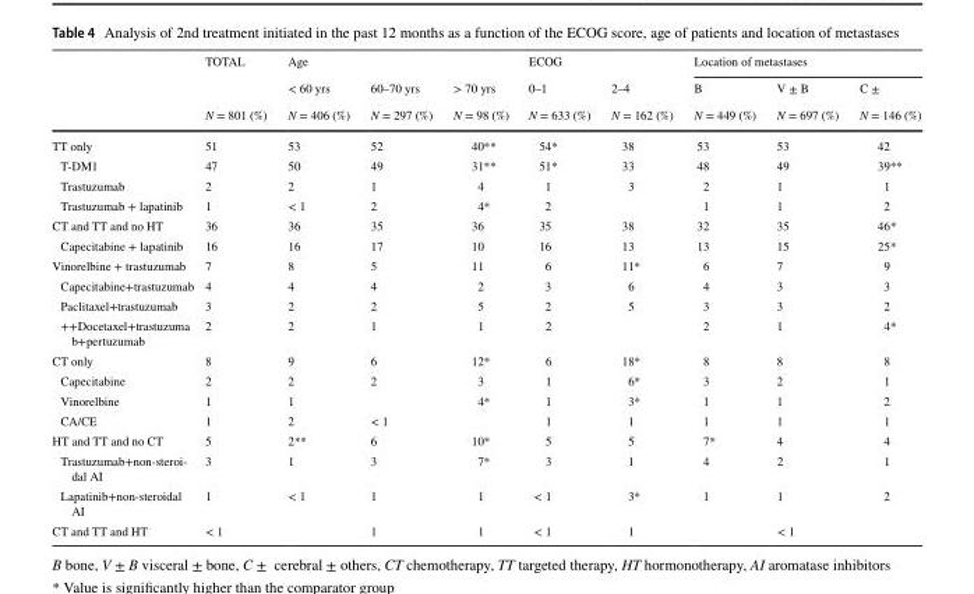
<table><thead><tr><td rowspan="3"></td><td rowspan="3">TOTAL N = 801 (%)</td><td rowspan="3">Age &lt; 60 yrs N = 406 (%)</td><td rowspan="3">60–70 yrs N = 297 (%)</td><td rowspan="3">&gt; 70 yrs N = 98 (%)</td><td rowspan="3">ECOG 0–1 N = 633 (%)</td><td rowspan="3">2–4 N = 162 (%)</td><td colspan="3">Location of metastases</td></tr><tr><td rowspan="2">B N = 449 (%)</td><td rowspan="2">V ± B N = 697 (%)</td><td rowspan="2">C ± N = 146 (%)</td></tr><tr></tr></thead><tbody><tr><td>TT only</td><td>51</td><td>53</td><td>52</td><td>40**</td><td>54*</td><td>38</td><td>53</td><td>53</td><td>42</td></tr><tr><td>T-DM1</td><td>47</td><td>50</td><td>49</td><td>31**</td><td>51*</td><td>33</td><td>48</td><td>49</td><td>39**</td></tr><tr><td>Trastuzumab</td><td>2</td><td>2</td><td>1</td><td>4</td><td>1</td><td>3</td><td>2</td><td>1</td><td>1</td></tr><tr><td>Trastuzumab + lapatinib</td><td>1</td><td>&lt; 1</td><td>2</td><td>4*</td><td>2</td><td></td><td>1</td><td>1</td><td>2</td></tr><tr><td>CT and TT and no HT</td><td>36</td><td>36</td><td>35</td><td>36</td><td>35</td><td>38</td><td>32</td><td>35</td><td>46*</td></tr><tr><td>Capecitabine + lapatinib</td><td>16</td><td>16</td><td>17</td><td>10</td><td>16</td><td>13</td><td>13</td><td>15</td><td>25*</td></tr><tr><td>Vinorelbine + trastuzumab</td><td>7</td><td>8</td><td>5</td><td>11</td><td>6</td><td>11*</td><td>6</td><td>7</td><td>9</td></tr><tr><td>Capecitabine+trastuzumab</td><td>4</td><td>4</td><td>4</td><td>2</td><td>3</td><td>6</td><td>4</td><td>3</td><td>3</td></tr><tr><td>Paclitaxel+trastuzumab</td><td>3</td><td>2</td><td>2</td><td>5</td><td>2</td><td>5</td><td>3</td><td>3</td><td>2</td></tr><tr><td>++Docetaxel+trastuzuma b+pertuzumab</td><td>2</td><td>2</td><td>1</td><td>1</td><td>2</td><td></td><td>2</td><td>1</td><td>4*</td></tr><tr><td>CT only</td><td>8</td><td>9</td><td>6</td><td>12*</td><td>6</td><td>18*</td><td>8</td><td>8</td><td>8</td></tr><tr><td>Capecitabine</td><td>2</td><td>2</td><td>2</td><td>3</td><td>1</td><td>6*</td><td>3</td><td>2</td><td>1</td></tr><tr><td>Vinorelbine</td><td>1</td><td>1</td><td></td><td>4*</td><td>1</td><td>3*</td><td>1</td><td>1</td><td>2</td></tr><tr><td>CA/CE</td><td>1</td><td>2</td><td>&lt; 1</td><td></td><td>1</td><td>1</td><td>1</td><td>1</td><td>1</td></tr><tr><td>HT and TT and no CT</td><td>5</td><td>2**</td><td>6</td><td>10*</td><td>5</td><td>5</td><td>7*</td><td>4</td><td>4</td></tr><tr><td>Trastuzumab+non-steroi- dal AI</td><td>3</td><td>1</td><td>3</td><td>7*</td><td>3</td><td>1</td><td>4</td><td>2</td><td>1</td></tr><tr><td>Lapatinib+non-steroidal AI</td><td>1</td><td>&lt; 1</td><td>1</td><td>1</td><td>&lt; 1</td><td>3*</td><td>1</td><td>1</td><td>2</td></tr><tr><td>CT and TT and HT</td><td>&lt; 1</td><td></td><td>1</td><td>1</td><td>&lt; 1</td><td>1</td><td></td><td>&lt; 1</td><td></td></tr></tbody></table>